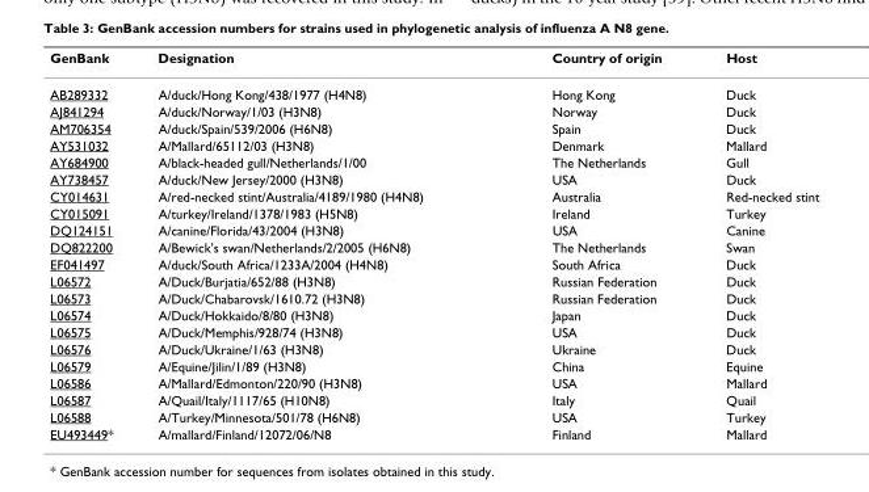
<table><thead><tr><td>GenBank</td><td>Designation</td><td>Country of origin</td><td>Host</td></tr></thead><tbody><tr><td>AB289332</td><td>A/duck/Hong Kong/438/1977 (H4N8)</td><td>Hong Kong</td><td>Duck</td></tr><tr><td>AJ841294</td><td>A/duck/Norway/1/03 (H3N8)</td><td>Norway</td><td>Duck</td></tr><tr><td>AM706354</td><td>A/duck/Spain/539/2006 (H6N8)</td><td>Spain</td><td>Duck</td></tr><tr><td>AY531032</td><td>A/Mallard/65112/03 (H3N8)</td><td>Denmark</td><td>Mallard</td></tr><tr><td>AY684900</td><td>A/black-headed gull/Netherlands/1/00</td><td>The Netherlands</td><td>Gull</td></tr><tr><td>AY738457</td><td>A/duck/New Jersey/2000 (H3N8)</td><td>USA</td><td>Duck</td></tr><tr><td>CY014631</td><td>A/red-necked stint/Australia/4189/1980 (H4N8)</td><td>Australia</td><td>Red-necked stint</td></tr><tr><td>CY015091</td><td>A/turkey/Ireland/1378/1983 (H5N8)</td><td>Ireland</td><td>Turkey</td></tr><tr><td>DQ124151</td><td>A/canine/Florida/43/2004 (H3N8)</td><td>USA</td><td>Canine</td></tr><tr><td>DQ822200</td><td>A/Bewick&#x27;s swan/Netherlands/2/2005 (H6N8)</td><td>The Netherlands</td><td>Swan</td></tr><tr><td>EF041497</td><td>A/duck/South Africa/1233A/2004 (H4N8)</td><td>South Africa</td><td>Duck</td></tr><tr><td>L06572</td><td>A/Duck/Burjatia/652/88 (H3N8)</td><td>Russian Federation</td><td>Duck</td></tr><tr><td>L06573</td><td>A/Duck/Chabarovsk/1610.72 (H3N8)</td><td>Russian Federation</td><td>Duck</td></tr><tr><td>L06574</td><td>A/Duck/Hokkaido/8/80 (H3N8)</td><td>Japan</td><td>Duck</td></tr><tr><td>L06575</td><td>A/Duck/Memphis/928/74 (H3N8)</td><td>USA</td><td>Duck</td></tr><tr><td>L06576</td><td>A/Duck/Ukraine/1/63 (H3N8)</td><td>Ukraine</td><td>Duck</td></tr><tr><td>L06579</td><td>A/Equine/Jilin/1/89 (H3N8)</td><td>China</td><td>Equine</td></tr><tr><td>L06586</td><td>A/Mallard/Edmonton/220/90 (H3N8)</td><td>USA</td><td>Mallard</td></tr><tr><td>L06587</td><td>A/Quail/Italy/1117/65 (H10N8)</td><td>Italy</td><td>Quail</td></tr><tr><td>L06588</td><td>A/Turkey/Minnesota/501/78 (H6N8)</td><td>USA</td><td>Turkey</td></tr><tr><td>EU493449*</td><td>A/mallard/Finland/12072/06/N8</td><td>Finland</td><td>Mallard</td></tr></tbody></table>